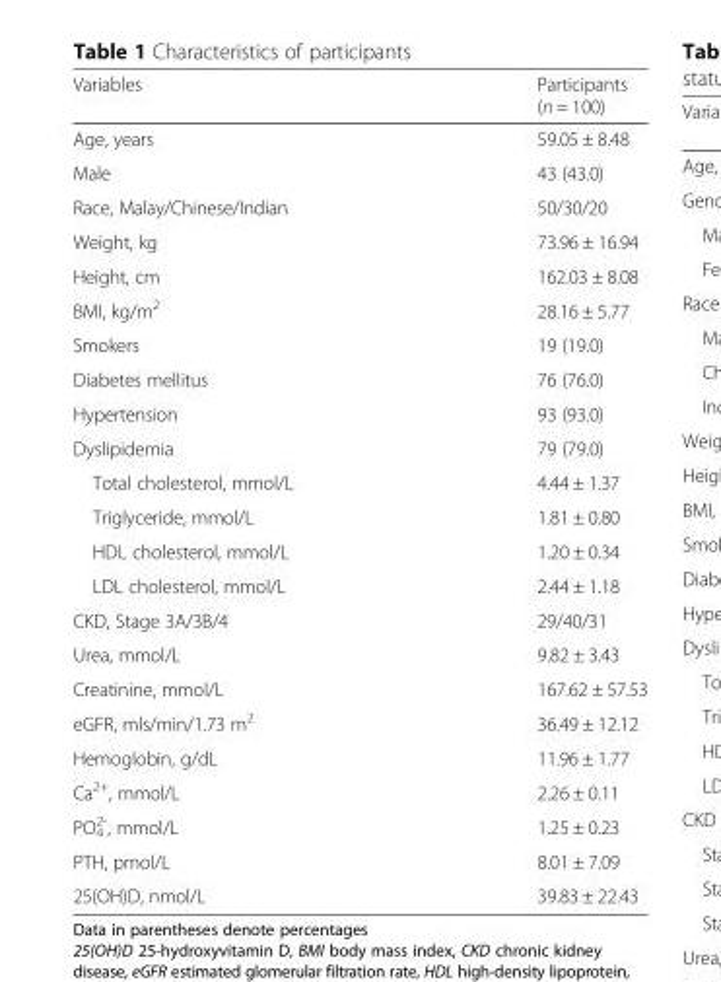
<table><thead><tr><td>Variables</td><td>Participants (n = 100)</td></tr></thead><tbody><tr><td>Age, years</td><td>59.05 ± 8.48</td></tr><tr><td>Male</td><td>43 (43.0)</td></tr><tr><td>Race, Malay/Chinese/Indian</td><td>50/30/20</td></tr><tr><td>Weight, kg</td><td>73.96 ± 16.94</td></tr><tr><td>Height, cm</td><td>162.03 ± 8.08</td></tr><tr><td>BMI, kg/m<sup>2</sup></td><td>28.16 ± 5.77</td></tr><tr><td>Smokers</td><td>19 (19.0)</td></tr><tr><td>Diabetes mellitus</td><td>76 (76.0)</td></tr><tr><td>Hypertension</td><td>93 (93.0)</td></tr><tr><td>Dyslipidemia</td><td>79 (79.0)</td></tr><tr><td>Total cholesterol, mmol/L</td><td>4.44 ± 1.37</td></tr><tr><td>Triglyceride, mmol/L</td><td>1.81 ± 0.80</td></tr><tr><td>HDL cholesterol, mmol/L</td><td>1.20 ± 0.34</td></tr><tr><td>LDL cholesterol, mmol/L</td><td>2.44 ± 1.18</td></tr><tr><td>CKD, Stage 3A/3B/4</td><td>29/40/31</td></tr><tr><td>Urea, mmol/L</td><td>9.82 ± 3.43</td></tr><tr><td>Creatinine, mmol/L</td><td>167.62 ± 57.53</td></tr><tr><td>eGFR, mls/min/1.73 m<sup>2</sup></td><td>36.49 ± 12.12</td></tr><tr><td>Hemoglobin, g/dL</td><td>11.96 ± 1.77</td></tr><tr><td>Ca<sup>2+</sup>, mmol/L</td><td>2.26 ± 0.11</td></tr><tr><td>PO<sub>4</sub> <sup>2-</sup>, mmol/L</td><td>1.25 ± 0.23</td></tr><tr><td>PTH, pmol/L</td><td>8.01 ± 7.09</td></tr><tr><td>25(OH)D, nmol/L</td><td>39.83 ± 22.43</td></tr></tbody></table>